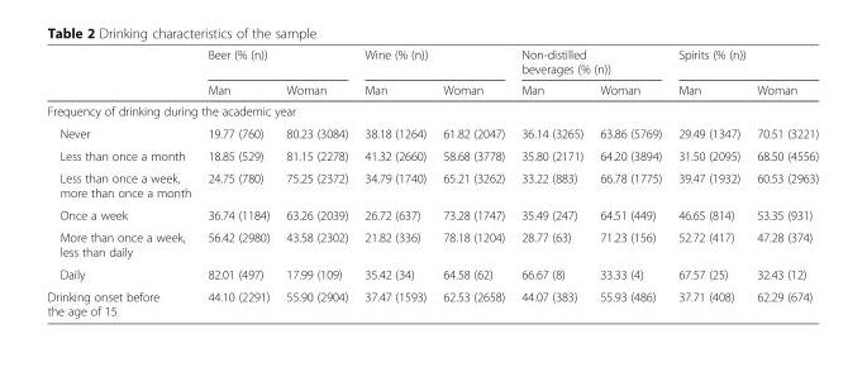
<table><thead><tr><td rowspan="2"></td><td colspan="2">Beer (% (n))</td><td colspan="2">Wine (% (n))</td><td colspan="2">Non-distilled beverages (% (n))</td><td colspan="2">Spirits (% (n))</td></tr><tr><td>Man</td><td>Woman</td><td>Man</td><td>Woman</td><td>Man</td><td>Woman</td><td>Man</td><td>Woman</td></tr></thead><tbody><tr><td colspan="9">Frequency of drinking during the academic year</td></tr><tr><td>Never</td><td>19.77 (760)</td><td>80.23 (3084)</td><td>38.18 (1264)</td><td>61.82 (2047)</td><td>36.14 (3265)</td><td>63.86 (5769)</td><td>29.49 (1347)</td><td>70.51 (3221)</td></tr><tr><td>Less than once a month</td><td>18.85 (529)</td><td>81.15 (2278)</td><td>41.32 (2660)</td><td>58.68 (3778)</td><td>35.80 (2171)</td><td>64.20 (3894)</td><td>31.50 (2095)</td><td>68.50 (4556)</td></tr><tr><td>Less than once a week, more than once a month</td><td>24.75 (780)</td><td>75.25 (2372)</td><td>34.79 (1740)</td><td>65.21 (3262)</td><td>33.22 (883)</td><td>66.78 (1775)</td><td>39.47 (1932)</td><td>60.53 (2963)</td></tr><tr><td>Once a week</td><td>36.74 (1184)</td><td>63.26 (2039)</td><td>26.72 (637)</td><td>73.28 (1747)</td><td>35.49 (247)</td><td>64.51 (449)</td><td>46.65 (814)</td><td>53.35 (931)</td></tr><tr><td>More than once a week, less than daily</td><td>56.42 (2980)</td><td>43.58 (2302)</td><td>21.82 (336)</td><td>78.18 (1204)</td><td>28.77 (63)</td><td>71.23 (156)</td><td>52.72 (417)</td><td>47.28 (374)</td></tr><tr><td>Daily</td><td>82.01 (497)</td><td>17.99 (109)</td><td>35.42 (34)</td><td>64.58 (62)</td><td>66.67 (8)</td><td>33.33 (4)</td><td>67.57 (25)</td><td>32.43 (12)</td></tr><tr><td>Drinking onset before the age of 15</td><td>44.10 (2291)</td><td>55.90 (2904)</td><td>37.47 (1593)</td><td>62.53 (2658)</td><td>44.07 (383)</td><td>55.93 (486)</td><td>37.71 (408)</td><td>62.29 (674)</td></tr></tbody></table>